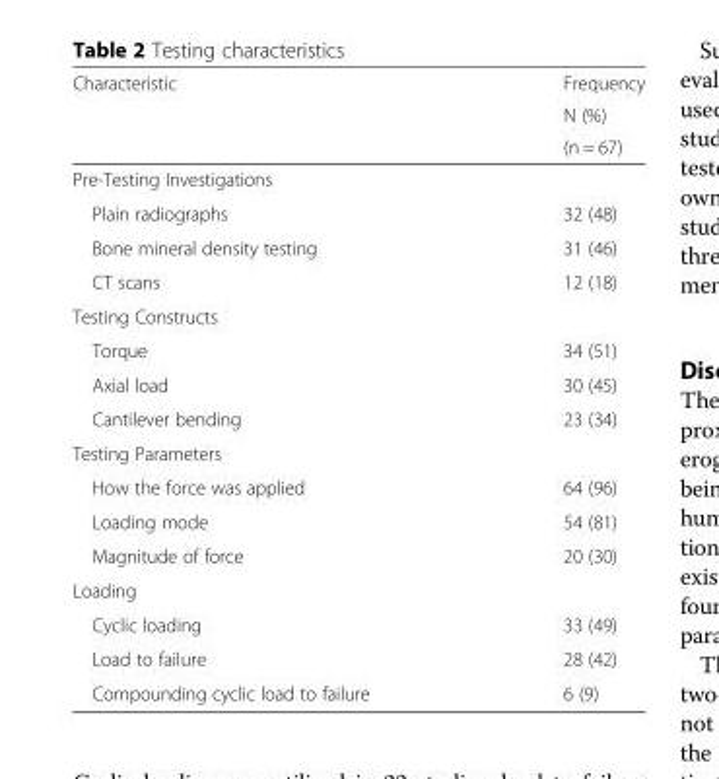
<table><thead><tr><td rowspan="3">Characteristic</td><td rowspan="3">Frequency N (%) (n = 67)</td></tr><tr></tr><tr></tr></thead><tbody><tr><td colspan="2">Pre-Testing Investigations</td></tr><tr><td>Plain radiographs</td><td>32 (48)</td></tr><tr><td>Bone mineral density testing</td><td>31 (46)</td></tr><tr><td>CT scans</td><td>12 (18)</td></tr><tr><td colspan="2">Testing Constructs</td></tr><tr><td>Torque</td><td>34 (51)</td></tr><tr><td>Axial load</td><td>30 (45)</td></tr><tr><td>Cantilever bending</td><td>23 (34)</td></tr><tr><td colspan="2">Testing Parameters</td></tr><tr><td>How the force was applied</td><td>64 (96)</td></tr><tr><td>Loading mode</td><td>54 (81)</td></tr><tr><td>Magnitude of force</td><td>20 (30)</td></tr><tr><td colspan="2">Loading</td></tr><tr><td>Cyclic loading</td><td>33 (49)</td></tr><tr><td>Load to failure</td><td>28 (42)</td></tr><tr><td>Compounding cyclic load to failure</td><td>6 (9)</td></tr></tbody></table>